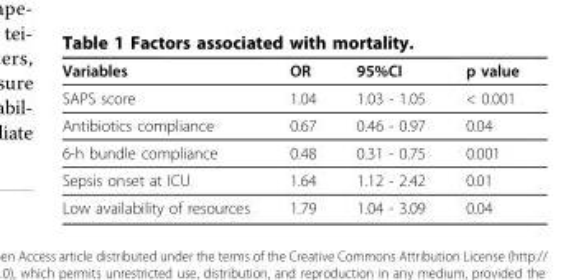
<table><thead><tr><td>Variables</td><td>OR</td><td>95%CI</td><td>p value</td></tr></thead><tbody><tr><td>SAPS score</td><td>1.04</td><td>1.03 - 1.05</td><td>&lt; 0.001</td></tr><tr><td>Antibiotics compliance</td><td>0.67</td><td>0.46 - 0.97</td><td>0.04</td></tr><tr><td>6-h bundle compliance</td><td>0.48</td><td>0.31 - 0.75</td><td>0.001</td></tr><tr><td>Sepsis onset at ICU</td><td>1.64</td><td>1.12 - 2.42</td><td>0.01</td></tr><tr><td>Low availability of resources</td><td>1.79</td><td>1.04 - 3.09</td><td>0.04</td></tr></tbody></table>